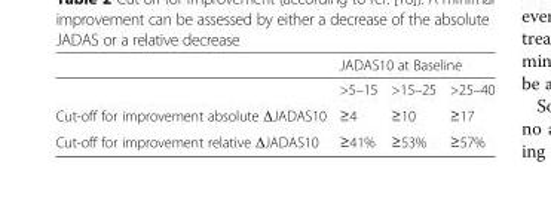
<table><thead><tr><td rowspan="2"></td><td colspan="3">JADAS10 at Baseline</td></tr><tr><td>&gt;5–15</td><td>&gt;15–25</td><td>&gt;25–40</td></tr></thead><tbody><tr><td>Cut-off for improvement absolute ΔJADAS10</td><td>≥4</td><td>≥10</td><td>≥17</td></tr><tr><td>Cut-off for improvement relative ΔJADAS10</td><td>≥41%</td><td>≥53%</td><td>≥57%</td></tr></tbody></table>